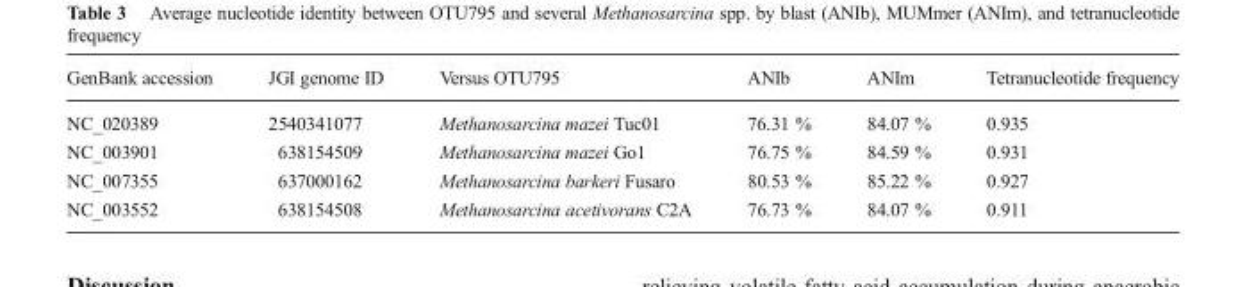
<table><thead><tr><td>GenBank accession</td><td>JGI genome ID</td><td>Versus OTU795</td><td>ANIb</td><td>ANIm</td><td>Tetranucleotide frequency</td></tr></thead><tbody><tr><td>NC_020389</td><td>2540341077</td><td>Methanosarcina mazei Tuc01</td><td>76.31 %</td><td>84.07 %</td><td>0.935</td></tr><tr><td>NC_003901</td><td>638154509</td><td>Methanosarcina mazei Go1</td><td>76.75 %</td><td>84.59 %</td><td>0.931</td></tr><tr><td>NC_007355</td><td>637000162</td><td>Methanosarcina barkeri Fusaro</td><td>80.53 %</td><td>85.22 %</td><td>0.927</td></tr><tr><td>NC_003552</td><td>638154508</td><td>Methanosarcina acetivorans C2A</td><td>76.73 %</td><td>84.07 %</td><td>0.911</td></tr></tbody></table>